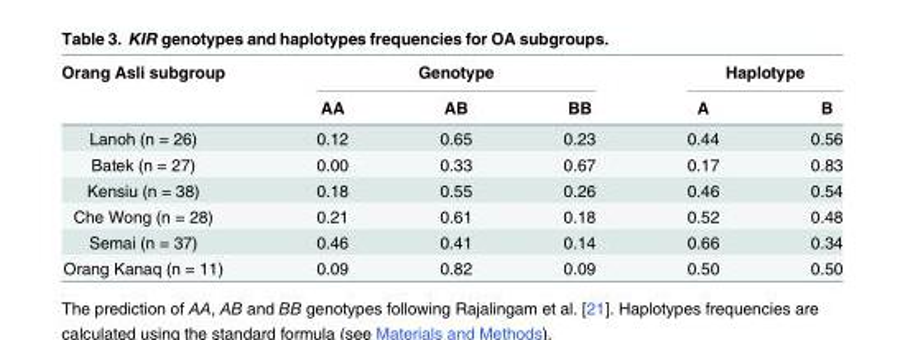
<table><thead><tr><td rowspan="2">Orang Asli subgroup</td><td colspan="3">Genotype</td><td colspan="2">Haplotype</td></tr><tr><td>AA</td><td>AB</td><td>BB</td><td>A</td><td>B</td></tr></thead><tbody><tr><td>Lanoh (n = 26)</td><td>0.12</td><td>0.65</td><td>0.23</td><td>0.44</td><td>0.56</td></tr><tr><td>Batek (n = 27)</td><td>0.00</td><td>0.33</td><td>0.67</td><td>0.17</td><td>0.83</td></tr><tr><td>Kensiu (n = 38)</td><td>0.18</td><td>0.55</td><td>0.26</td><td>0.46</td><td>0.54</td></tr><tr><td>Che Wong (n = 28)</td><td>0.21</td><td>0.61</td><td>0.18</td><td>0.52</td><td>0.48</td></tr><tr><td>Semai (n = 37)</td><td>0.46</td><td>0.41</td><td>0.14</td><td>0.66</td><td>0.34</td></tr><tr><td>Orang Kanaq (n = 11)</td><td>0.09</td><td>0.82</td><td>0.09</td><td>0.50</td><td>0.50</td></tr></tbody></table>